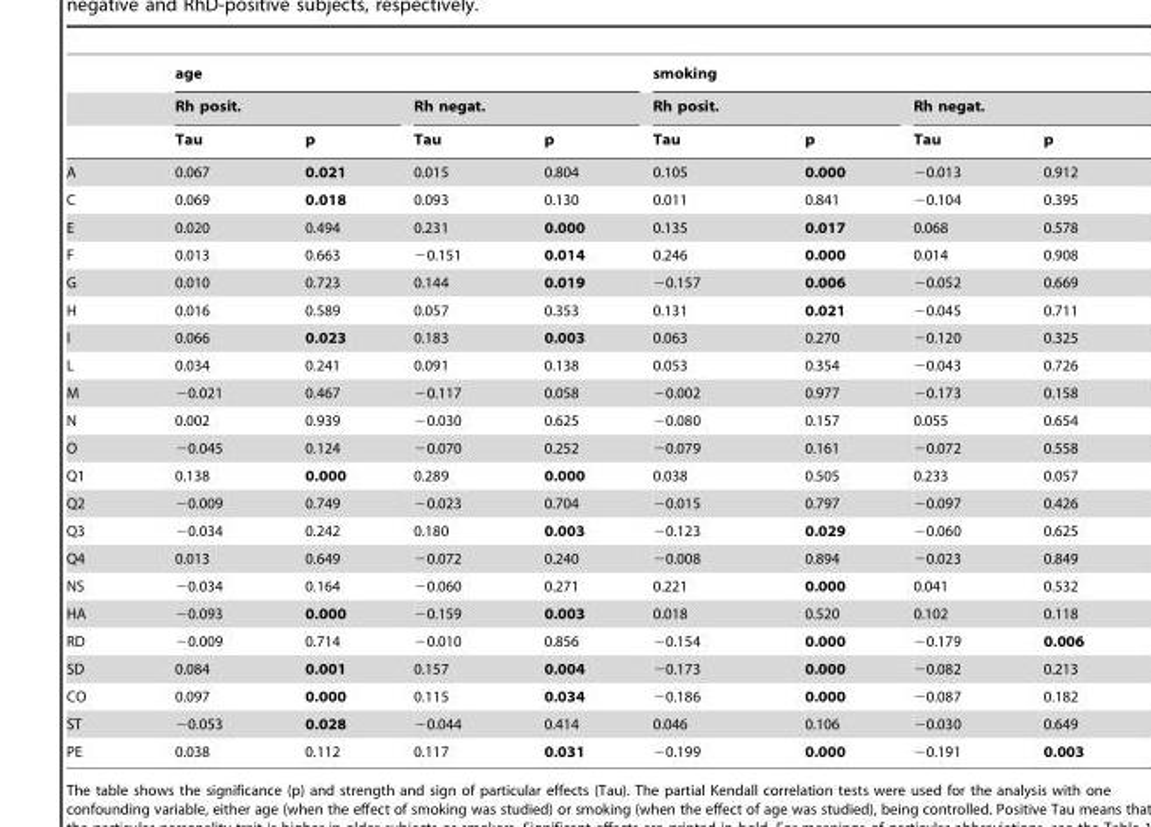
<table><thead><tr><td rowspan="3"></td><td colspan="4">age</td><td colspan="4">smoking</td></tr><tr><td colspan="2">Rh posit.</td><td colspan="2">Rh negat.</td><td colspan="2">Rh posit.</td><td colspan="2">Rh negat.</td></tr><tr><td>Tau</td><td>p</td><td>Tau</td><td>p</td><td>Tau</td><td>p</td><td>Tau</td><td>p</td></tr></thead><tbody><tr><td>A</td><td>0.067</td><td>0.021</td><td>0.015</td><td>0.804</td><td>0.105</td><td>0.000</td><td>−0.013</td><td>0.912</td></tr><tr><td>C</td><td>0.069</td><td>0.018</td><td>0.093</td><td>0.130</td><td>0.011</td><td>0.841</td><td>−0.104</td><td>0.395</td></tr><tr><td>E</td><td>0.020</td><td>0.494</td><td>0.231</td><td>0.000</td><td>0.135</td><td>0.017</td><td>0.068</td><td>0.578</td></tr><tr><td>F</td><td>0.013</td><td>0.663</td><td>−0.151</td><td>0.014</td><td>0.246</td><td>0.000</td><td>0.014</td><td>0.908</td></tr><tr><td>G</td><td>0.010</td><td>0.723</td><td>0.144</td><td>0.019</td><td>−0.157</td><td>0.006</td><td>−0.052</td><td>0.669</td></tr><tr><td>H</td><td>0.016</td><td>0.589</td><td>0.057</td><td>0.353</td><td>0.131</td><td>0.021</td><td>−0.045</td><td>0.711</td></tr><tr><td>I</td><td>0.066</td><td>0.023</td><td>0.183</td><td>0.003</td><td>0.063</td><td>0.270</td><td>−0.120</td><td>0.325</td></tr><tr><td>L</td><td>0.034</td><td>0.241</td><td>0.091</td><td>0.138</td><td>0.053</td><td>0.354</td><td>−0.043</td><td>0.726</td></tr><tr><td>M</td><td>−0.021</td><td>0.467</td><td>−0.117</td><td>0.058</td><td>−0.002</td><td>0.977</td><td>−0.173</td><td>0.158</td></tr><tr><td>N</td><td>0.002</td><td>0.939</td><td>−0.030</td><td>0.625</td><td>−0.080</td><td>0.157</td><td>0.055</td><td>0.654</td></tr><tr><td>O</td><td>−0.045</td><td>0.124</td><td>−0.070</td><td>0.252</td><td>−0.079</td><td>0.161</td><td>−0.072</td><td>0.558</td></tr><tr><td>Q1</td><td>0.138</td><td>0.000</td><td>0.289</td><td>0.000</td><td>0.038</td><td>0.505</td><td>0.233</td><td>0.057</td></tr><tr><td>Q2</td><td>−0.009</td><td>0.749</td><td>−0.023</td><td>0.704</td><td>−0.015</td><td>0.797</td><td>−0.097</td><td>0.426</td></tr><tr><td>Q3</td><td>−0.034</td><td>0.242</td><td>0.180</td><td>0.003</td><td>−0.123</td><td>0.029</td><td>−0.060</td><td>0.625</td></tr><tr><td>Q4</td><td>0.013</td><td>0.649</td><td>−0.072</td><td>0.240</td><td>−0.008</td><td>0.894</td><td>−0.023</td><td>0.849</td></tr><tr><td>NS</td><td>−0.034</td><td>0.164</td><td>−0.060</td><td>0.271</td><td>0.221</td><td>0.000</td><td>0.041</td><td>0.532</td></tr><tr><td>HA</td><td>−0.093</td><td>0.000</td><td>−0.159</td><td>0.003</td><td>0.018</td><td>0.520</td><td>0.102</td><td>0.118</td></tr><tr><td>RD</td><td>−0.009</td><td>0.714</td><td>−0.010</td><td>0.856</td><td>−0.154</td><td>0.000</td><td>−0.179</td><td>0.006</td></tr><tr><td>SD</td><td>0.084</td><td>0.001</td><td>0.157</td><td>0.004</td><td>−0.173</td><td>0.000</td><td>−0.082</td><td>0.213</td></tr><tr><td>CO</td><td>0.097</td><td>0.000</td><td>0.115</td><td>0.034</td><td>−0.186</td><td>0.000</td><td>−0.087</td><td>0.182</td></tr><tr><td>ST</td><td>−0.053</td><td>0.028</td><td>−0.044</td><td>0.414</td><td>0.046</td><td>0.106</td><td>−0.030</td><td>0.649</td></tr><tr><td>PE</td><td>0.038</td><td>0.112</td><td>0.117</td><td>0.031</td><td>−0.199</td><td>0.000</td><td>−0.191</td><td>0.003</td></tr></tbody></table>